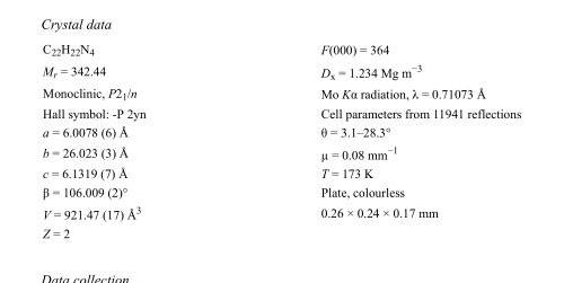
<table><tbody><tr><td>C<sub>22</sub>H<sub>22</sub>N<sub>4</sub></td><td>F(000) = 364</td></tr><tr><td>M<sub>r</sub> = 342.44</td><td>D<sub>x</sub> = 1.234 Mg m<sup>−3</sup></td></tr><tr><td>Monoclinic, P2<sub>1</sub>/n</td><td>Mo Kα radiation, λ = 0.71073 Å</td></tr><tr><td>Hall symbol: -P 2yn</td><td>Cell parameters from 11941 reflections</td></tr><tr><td>a = 6.0078 (6) Å</td><td>θ = 3.1–28.3°</td></tr><tr><td>b = 26.023 (3) Å</td><td>µ = 0.08 mm<sup>−1</sup></td></tr><tr><td>c = 6.1319 (7) Å</td><td>T = 173 K</td></tr><tr><td>β = 106.009 (2)°</td><td>Plate, colourless</td></tr><tr><td>V = 921.47 (17) Å<sup>3</sup></td><td>0.26 × 0.24 × 0.17 mm</td></tr><tr><td>Z = 2</td><td></td></tr></tbody></table>